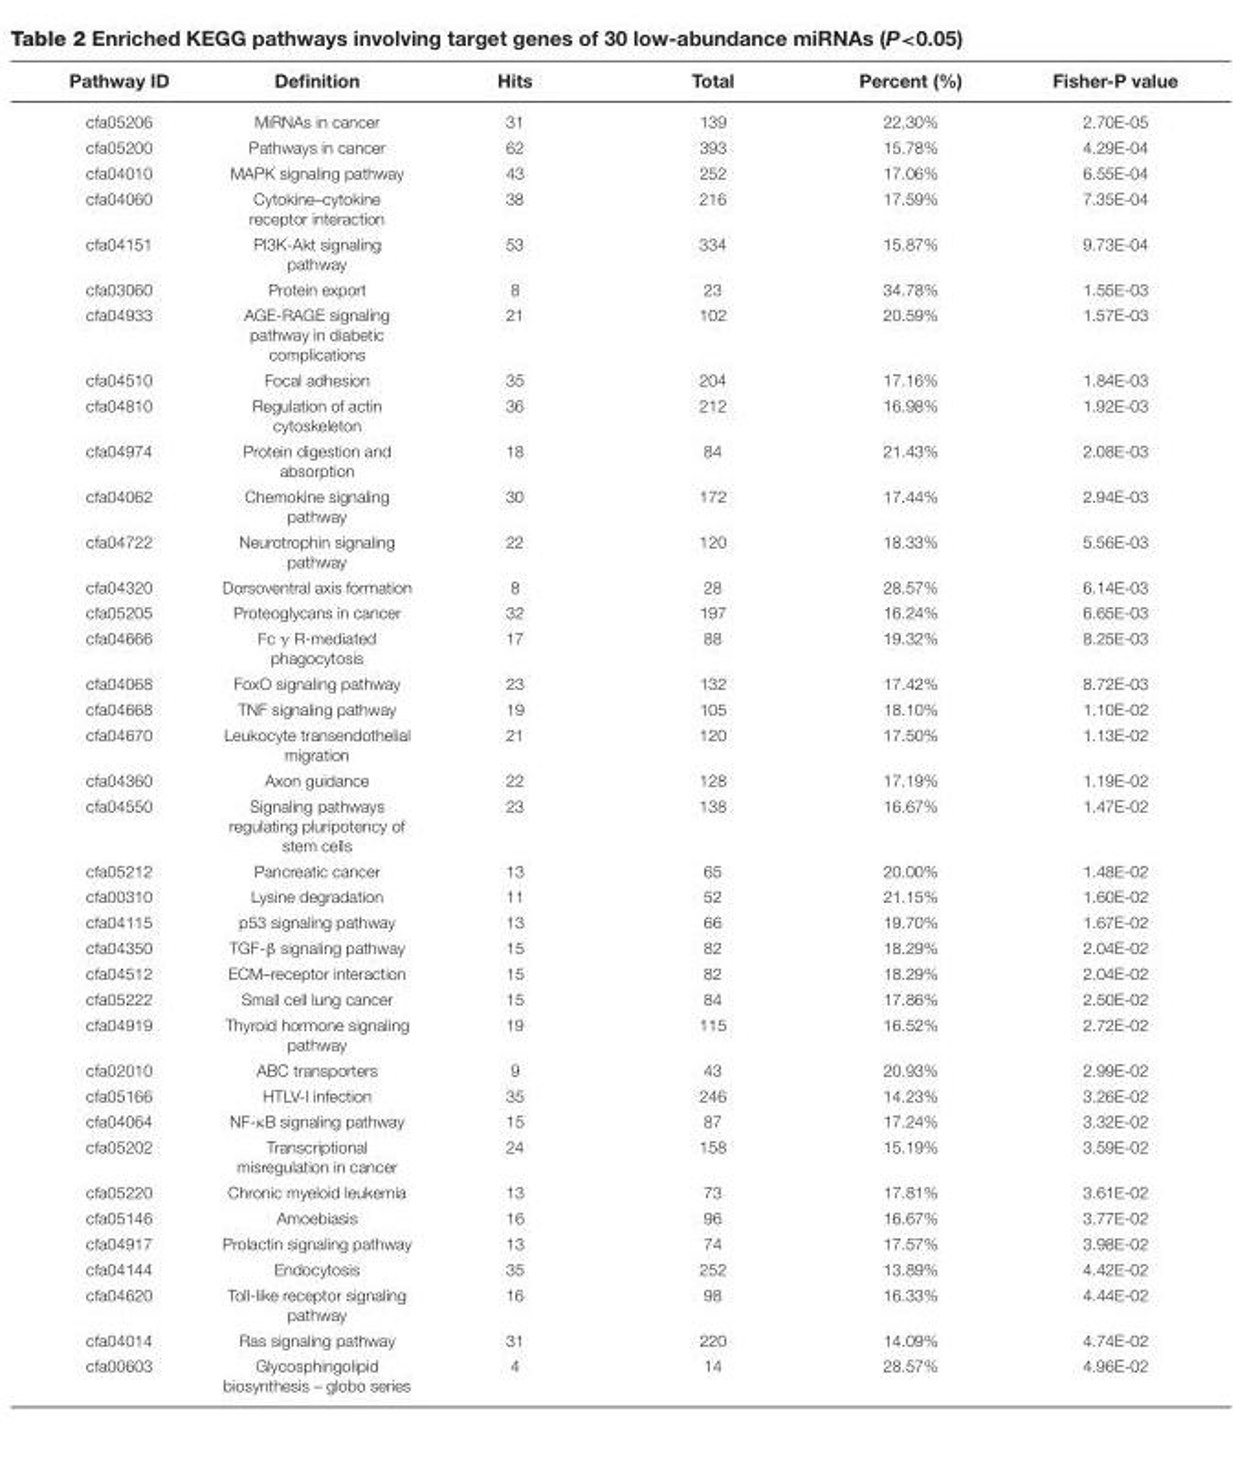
<table><thead><tr><td>Pathway ID</td><td>Definition</td><td>Hits</td><td>Total</td><td>Percent (%)</td><td>Fisher-P value</td></tr></thead><tbody><tr><td>cfa05206</td><td>MiRNAs in cancer</td><td>31</td><td>139</td><td>22.30%</td><td>2.70E-05</td></tr><tr><td>cfa05200</td><td>Pathways in cancer</td><td>62</td><td>393</td><td>15.78%</td><td>4.29E-04</td></tr><tr><td>cfa04010</td><td>MAPK signaling pathway</td><td>43</td><td>252</td><td>17.06%</td><td>6.55E-04</td></tr><tr><td>cfa04060</td><td>Cytokine–cytokine receptor interaction</td><td>38</td><td>216</td><td>17.59%</td><td>7.35E-04</td></tr><tr><td>cfa04151</td><td>PI3K-Akt signaling pathway</td><td>53</td><td>334</td><td>15.87%</td><td>9.73E-04</td></tr><tr><td>cfa03060</td><td>Protein export</td><td>8</td><td>23</td><td>34.78%</td><td>1.55E-03</td></tr><tr><td>cfa04933</td><td>AGE-RAGE signaling pathway in diabetic complications</td><td>21</td><td>102</td><td>20.59%</td><td>1.57E-03</td></tr><tr><td>cfa04510</td><td>Focal adhesion</td><td>35</td><td>204</td><td>17.16%</td><td>1.84E-03</td></tr><tr><td>cfa04810</td><td>Regulation of actin cytoskeleton</td><td>36</td><td>212</td><td>16.98%</td><td>1.92E-03</td></tr><tr><td>cfa04974</td><td>Protein digestion and absorption</td><td>18</td><td>84</td><td>21.43%</td><td>2.08E-03</td></tr><tr><td>cfa04062</td><td>Chemokine signaling pathway</td><td>30</td><td>172</td><td>17.44%</td><td>2.94E-03</td></tr><tr><td>cfa04722</td><td>Neurotrophin signaling pathway</td><td>22</td><td>120</td><td>18.33%</td><td>5.56E-03</td></tr><tr><td>cfa04320</td><td>Dorsoventral axis formation</td><td>8</td><td>28</td><td>28.57%</td><td>6.14E-03</td></tr><tr><td>cfa05205</td><td>Proteoglycans in cancer</td><td>32</td><td>197</td><td>16.24%</td><td>6.65E-03</td></tr><tr><td>cfa04666</td><td>Fc γ R-mediated phagocytosis</td><td>17</td><td>88</td><td>19.32%</td><td>8.25E-03</td></tr><tr><td>cfa04068</td><td>FoxO signaling pathway</td><td>23</td><td>132</td><td>17.42%</td><td>8.72E-03</td></tr><tr><td>cfa04668</td><td>TNF signaling pathway</td><td>19</td><td>105</td><td>18.10%</td><td>1.10E-02</td></tr><tr><td>cfa04670</td><td>Leukocyte transendothelial migration</td><td>21</td><td>120</td><td>17.50%</td><td>1.13E-02</td></tr><tr><td>cfa04360</td><td>Axon guidance</td><td>22</td><td>128</td><td>17.19%</td><td>1.19E-02</td></tr><tr><td>cfa04550</td><td>Signaling pathways regulating pluripotency of stem cells</td><td>23</td><td>138</td><td>16.67%</td><td>1.47E-02</td></tr><tr><td>cfa05212</td><td>Pancreatic cancer</td><td>13</td><td>65</td><td>20.00%</td><td>1.48E-02</td></tr><tr><td>cfa00310</td><td>Lysine degradation</td><td>11</td><td>52</td><td>21.15%</td><td>1.60E-02</td></tr><tr><td>cfa04115</td><td>p53 signaling pathway</td><td>13</td><td>66</td><td>19.70%</td><td>1.67E-02</td></tr><tr><td>cfa04350</td><td>TGF-β signaling pathway</td><td>15</td><td>82</td><td>18.29%</td><td>2.04E-02</td></tr><tr><td>cfa04512</td><td>ECM–receptor interaction</td><td>15</td><td>82</td><td>18.29%</td><td>2.04E-02</td></tr><tr><td>cfa05222</td><td>Small cell lung cancer</td><td>15</td><td>84</td><td>17.86%</td><td>2.50E-02</td></tr><tr><td>cfa04919</td><td>Thyroid hormone signaling pathway</td><td>19</td><td>115</td><td>16.52%</td><td>2.72E-02</td></tr><tr><td>cfa02010</td><td>ABC transporters</td><td>9</td><td>43</td><td>20.93%</td><td>2.99E-02</td></tr><tr><td>cfa05166</td><td>HTLV-I infection</td><td>35</td><td>246</td><td>14.23%</td><td>3.26E-02</td></tr><tr><td>cfa04064</td><td>NF-κB signaling pathway</td><td>15</td><td>87</td><td>17.24%</td><td>3.32E-02</td></tr><tr><td>cfa05202</td><td>Transcriptional misregulation in cancer</td><td>24</td><td>158</td><td>15.19%</td><td>3.59E-02</td></tr><tr><td>cfa05220</td><td>Chronic myeloid leukemia</td><td>13</td><td>73</td><td>17.81%</td><td>3.61E-02</td></tr><tr><td>cfa05146</td><td>Amoebiasis</td><td>16</td><td>96</td><td>16.67%</td><td>3.77E-02</td></tr><tr><td>cfa04917</td><td>Prolactin signaling pathway</td><td>13</td><td>74</td><td>17.57%</td><td>3.98E-02</td></tr><tr><td>cfa04144</td><td>Endocytosis</td><td>35</td><td>252</td><td>13.89%</td><td>4.42E-02</td></tr><tr><td>cfa04620</td><td>Toll-like receptor signaling pathway</td><td>16</td><td>98</td><td>16.33%</td><td>4.44E-02</td></tr><tr><td>cfa04014</td><td>Ras signaling pathway</td><td>31</td><td>220</td><td>14.09%</td><td>4.74E-02</td></tr><tr><td>cfa00603</td><td>Glycosphingolipid biosynthesis – globo series</td><td>4</td><td>14</td><td>28.57%</td><td>4.96E-02</td></tr></tbody></table>